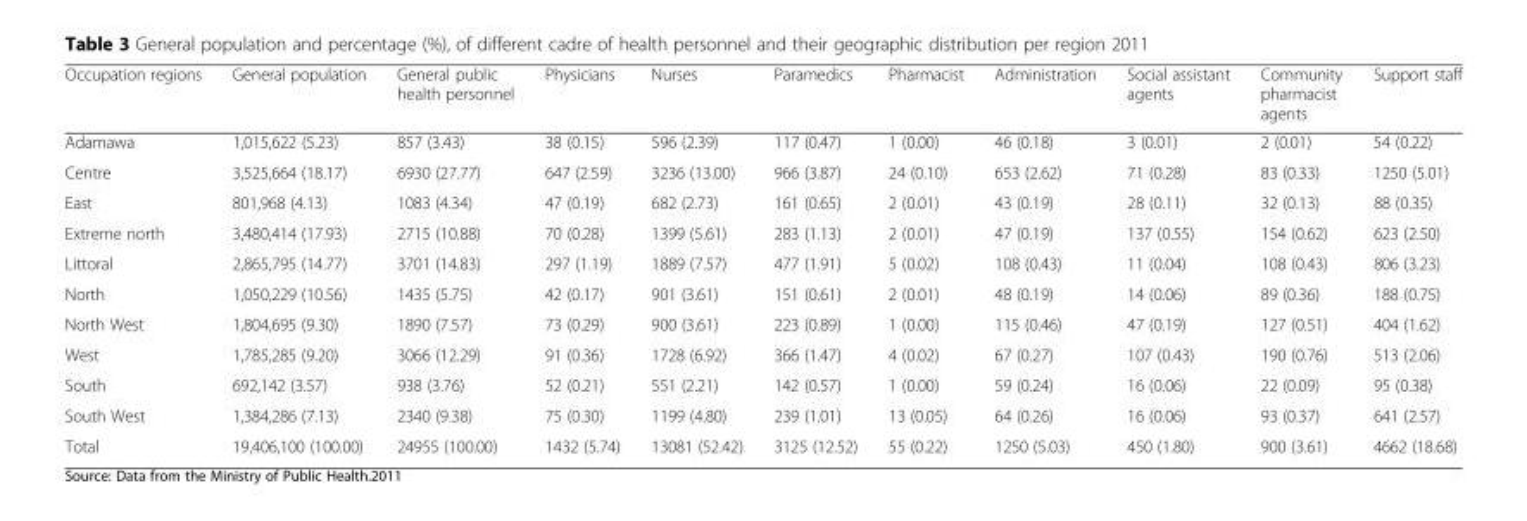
<table><thead><tr><td>Occupation regions</td><td>General population</td><td>General public health personnel</td><td>Physicians</td><td>Nurses</td><td>Paramedics</td><td>Pharmacist</td><td>Administration</td><td>Social assistant agents</td><td>Community pharmacist agents</td><td>Support staff</td></tr></thead><tbody><tr><td>Adamawa</td><td>1,015,622 (5.23)</td><td>857 (3.43)</td><td>38 (0.15)</td><td>596 (2.39)</td><td>117 (0.47)</td><td>1 (0.00)</td><td>46 (0.18)</td><td>3 (0.01)</td><td>2 (0.01)</td><td>54 (0.22)</td></tr><tr><td>Centre</td><td>3,525,664 (18.17)</td><td>6930 (27.77)</td><td>647 (2.59)</td><td>3236 (13.00)</td><td>966 (3.87)</td><td>24 (0.10)</td><td>653 (2.62)</td><td>71 (0.28)</td><td>83 (0.33)</td><td>1250 (5.01)</td></tr><tr><td>East</td><td>801,968 (4.13)</td><td>1083 (4.34)</td><td>47 (0.19)</td><td>682 (2.73)</td><td>161 (0.65)</td><td>2 (0.01)</td><td>43 (0.19)</td><td>28 (0.11)</td><td>32 (0.13)</td><td>88 (0.35)</td></tr><tr><td>Extreme north</td><td>3,480,414 (17.93)</td><td>2715 (10.88)</td><td>70 (0.28)</td><td>1399 (5.61)</td><td>283 (1.13)</td><td>2 (0.01)</td><td>47 (0.19)</td><td>137 (0.55)</td><td>154 (0.62)</td><td>623 (2.50)</td></tr><tr><td>Littoral</td><td>2,865,795 (14.77)</td><td>3701 (14.83)</td><td>297 (1.19)</td><td>1889 (7.57)</td><td>477 (1.91)</td><td>5 (0.02)</td><td>108 (0.43)</td><td>11 (0.04)</td><td>108 (0.43)</td><td>806 (3.23)</td></tr><tr><td>North</td><td>1,050,229 (10.56)</td><td>1435 (5.75)</td><td>42 (0.17)</td><td>901 (3.61)</td><td>151 (0.61)</td><td>2 (0.01)</td><td>48 (0.19)</td><td>14 (0.06)</td><td>89 (0.36)</td><td>188 (0.75)</td></tr><tr><td>North West</td><td>1,804,695 (9.30)</td><td>1890 (7.57)</td><td>73 (0.29)</td><td>900 (3.61)</td><td>223 (0.89)</td><td>1 (0.00)</td><td>115 (0.46)</td><td>47 (0.19)</td><td>127 (0.51)</td><td>404 (1.62)</td></tr><tr><td>West</td><td>1,785,285 (9.20)</td><td>3066 (12.29)</td><td>91 (0.36)</td><td>1728 (6.92)</td><td>366 (1.47)</td><td>4 (0.02)</td><td>67 (0.27)</td><td>107 (0.43)</td><td>190 (0.76)</td><td>513 (2.06)</td></tr><tr><td>South</td><td>692,142 (3.57)</td><td>938 (3.76)</td><td>52 (0.21)</td><td>551 (2.21)</td><td>142 (0.57)</td><td>1 (0.00)</td><td>59 (0.24)</td><td>16 (0.06)</td><td>22 (0.09)</td><td>95 (0.38)</td></tr><tr><td>South West</td><td>1,384,286 (7.13)</td><td>2340 (9.38)</td><td>75 (0.30)</td><td>1199 (4.80)</td><td>239 (1.01)</td><td>13 (0.05)</td><td>64 (0.26)</td><td>16 (0.06)</td><td>93 (0.37)</td><td>641 (2.57)</td></tr><tr><td>Total</td><td>19,406,100 (100.00)</td><td>24955 (100.00)</td><td>1432 (5.74)</td><td>13081 (52.42)</td><td>3125 (12.52)</td><td>55 (0.22)</td><td>1250 (5.03)</td><td>450 (1.80)</td><td>900 (3.61)</td><td>4662 (18.68)</td></tr></tbody></table>